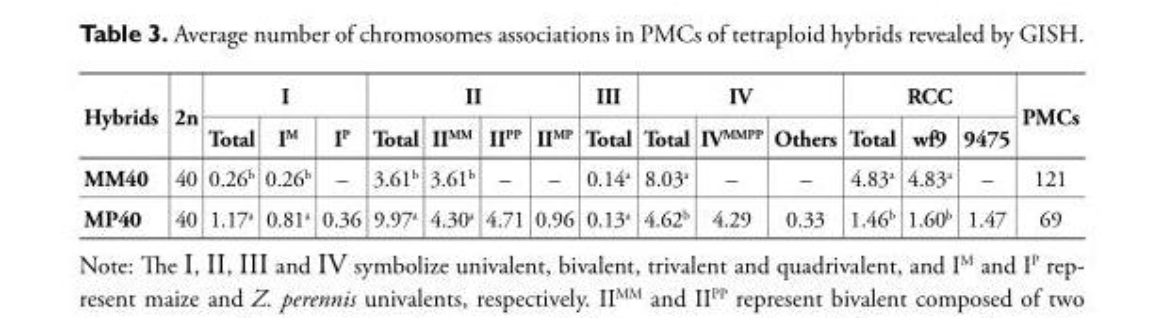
<table><thead><tr><td rowspan="2">Hy brids</td><td rowspan="2">2n</td><td colspan="3">I</td><td colspan="4">II</td><td rowspan="2">III Total</td><td colspan="3">IV</td><td colspan="3">RCC</td><td rowspan="2">PMCs</td></tr><tr><td>Total</td><td>I<sup>M</sup></td><td>I<sup>P</sup></td><td>Total</td><td>II<sup>MM</sup></td><td>II<sup>PP</sup></td><td>II<sup>MP</sup></td><td>Total</td><td>IV<sup>MMPP</sup></td><td>Others</td><td>Total</td><td>wf9</td><td>9475</td></tr></thead><tbody><tr><td>MM40</td><td>40</td><td>0.26<sup>b</sup></td><td>0.26<sup>b</sup></td><td>–</td><td>3.61<sup>b</sup></td><td>3.61<sup>b</sup></td><td>–</td><td>–</td><td>0.14<sup>a</sup></td><td>8.03<sup>a</sup></td><td>–</td><td>–</td><td>4.83<sup>a</sup></td><td>4.83<sup>a</sup></td><td>–</td><td>121</td></tr><tr><td>MP40</td><td>40</td><td>1.17<sup>a</sup></td><td>0.81<sup>a</sup></td><td>0.36</td><td>9.97<sup>a</sup></td><td>4.30<sup>a</sup></td><td>4.71</td><td>0.96</td><td>0.13<sup>a</sup></td><td>4.62<sup>b</sup></td><td>4.29</td><td>0.33</td><td>1.46<sup>b</sup></td><td>1.60<sup>b</sup></td><td>1.47</td><td>69</td></tr></tbody></table>